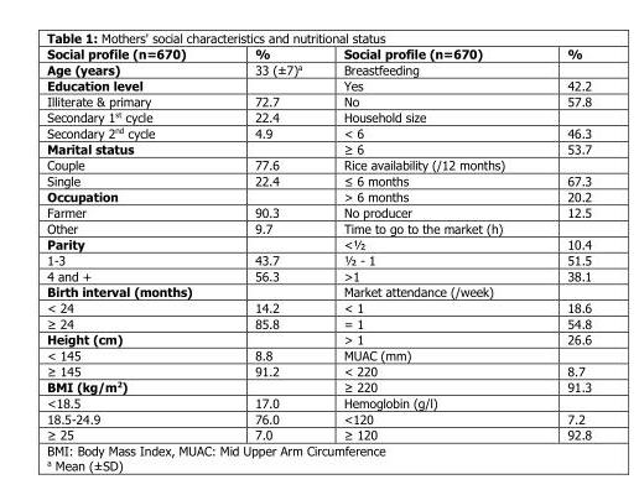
<table><thead><tr><td>Social profile (n=670)</td><td>%</td><td>Social profile (n=670)</td><td>%</td></tr></thead><tbody><tr><td>Age (years)</td><td>33 (±7)<sup>a</sup></td><td>Breastfeeding</td><td></td></tr><tr><td>Education level</td><td></td><td>Yes</td><td>42.2</td></tr><tr><td>Illiterate &amp; primary</td><td>72.7</td><td>No</td><td>57.8</td></tr><tr><td>Secondary 1<sup>st</sup> cycle</td><td>22.4</td><td>Household size</td><td></td></tr><tr><td>Secondary 2<sup>nd</sup> cycle</td><td>4.9</td><td>&lt; 6</td><td>46.3</td></tr><tr><td>Marital status</td><td></td><td>≥ 6</td><td>53.7</td></tr><tr><td>Couple</td><td>77.6</td><td>Rice availability (/12 months)</td><td></td></tr><tr><td>Single</td><td>22.4</td><td>≤ 6 months</td><td>67.3</td></tr><tr><td>Occupation</td><td></td><td>&gt; 6 months</td><td>20.2</td></tr><tr><td>Farmer</td><td>90.3</td><td>No producer</td><td>12.5</td></tr><tr><td>Other</td><td>9.7</td><td>Time to go to the market (h)</td><td></td></tr><tr><td>Parity</td><td></td><td>&lt;½</td><td>10.4</td></tr><tr><td>1-3</td><td>43.7</td><td>½ - 1</td><td>51.5</td></tr><tr><td>4 and +</td><td>56.3</td><td>&gt;1</td><td>38.1</td></tr><tr><td>Birth interval (months)</td><td></td><td>Market attendance (/week)</td><td></td></tr><tr><td>&lt; 24</td><td>14.2</td><td>&lt; 1</td><td>18.6</td></tr><tr><td>≥ 24</td><td>85.8</td><td>= 1</td><td>54.8</td></tr><tr><td>Height (cm)</td><td></td><td>&gt; 1</td><td>26.6</td></tr><tr><td>&lt; 145</td><td>8.8</td><td>MUAC (mm)</td><td></td></tr><tr><td>≥ 145</td><td>91.2</td><td>&lt; 220</td><td>8.7</td></tr><tr><td>BMI (kg/m<sup>2</sup>)</td><td></td><td>≥ 220</td><td>91.3</td></tr><tr><td>&lt;18.5</td><td>17.0</td><td>Hemoglobin (g/l)</td><td></td></tr><tr><td>18.5-24.9</td><td>76.0</td><td>&lt;120</td><td>7.2</td></tr><tr><td>≥ 25</td><td>7.0</td><td>≥ 120</td><td>92.8</td></tr></tbody></table>